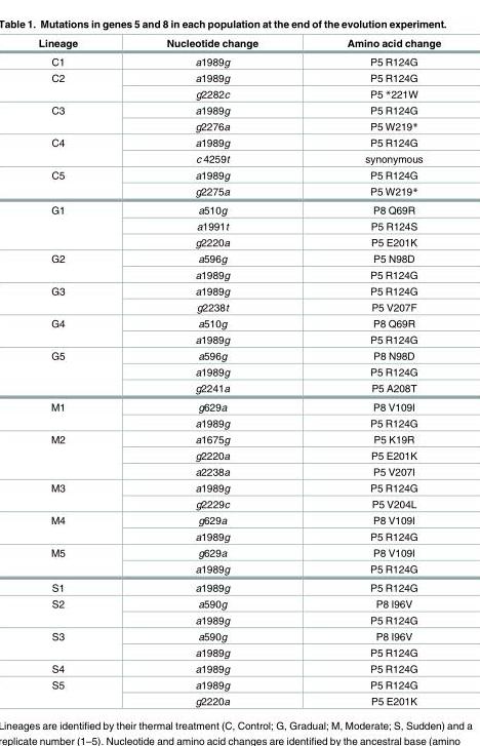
<table><thead><tr><td>Lineage</td><td>Nucleotide change</td><td>Amino acid change</td></tr></thead><tbody><tr><td>C1</td><td>a1989g</td><td>P5 R124G</td></tr><tr><td rowspan="2">C2</td><td>a1989g</td><td>P5 R124G</td></tr><tr><td>g2282c</td><td>P5 *221W</td></tr><tr><td rowspan="2">C3</td><td>a1989g</td><td>P5 R124G</td></tr><tr><td>g2276a</td><td>P5 W219*</td></tr><tr><td rowspan="2">C4</td><td>a1989g</td><td>P5 R124G</td></tr><tr><td>c 4259t</td><td>synonymous</td></tr><tr><td rowspan="2">C5</td><td>a1989g</td><td>P5 R124G</td></tr><tr><td>g2275a</td><td>P5 W219*</td></tr><tr><td rowspan="3">G1</td><td>a510g</td><td>P8 Q69R</td></tr><tr><td>a1991t</td><td>P5 R124S</td></tr><tr><td>g2220a</td><td>P5 E201K</td></tr><tr><td rowspan="2">G2</td><td>a596g</td><td>P5 N98D</td></tr><tr><td>a1989g</td><td>P5 R124G</td></tr><tr><td rowspan="2">G3</td><td>a1989g</td><td>P5 R124G</td></tr><tr><td>g2238t</td><td>P5 V207F</td></tr><tr><td rowspan="2">G4</td><td>a510g</td><td>P8 Q69R</td></tr><tr><td>a1989g</td><td>P5 R124G</td></tr><tr><td rowspan="3">G5</td><td>a596g</td><td>P8 N98D</td></tr><tr><td>a1989g</td><td>P5 R124G</td></tr><tr><td>g2241a</td><td>P5 A208T</td></tr><tr><td rowspan="2">M1</td><td>g629a</td><td>P8 V109I</td></tr><tr><td>a1989g</td><td>P5 R124G</td></tr><tr><td rowspan="3">M2</td><td>a1675g</td><td>P5 K19R</td></tr><tr><td>g2220a</td><td>P5 E201K</td></tr><tr><td>a2238a</td><td>P5 V207I</td></tr><tr><td rowspan="2">M3</td><td>a1989g</td><td>P5 R124G</td></tr><tr><td>g2229c</td><td>P5 V204L</td></tr><tr><td rowspan="2">M4</td><td>g629a</td><td>P8 V109I</td></tr><tr><td>a1989g</td><td>P5 R124G</td></tr><tr><td rowspan="2">M5</td><td>g629a</td><td>P8 V109I</td></tr><tr><td>a1989g</td><td>P5 R124G</td></tr><tr><td>S1</td><td>a1989g</td><td>P5 R124G</td></tr><tr><td rowspan="2">S2</td><td>a590g</td><td>P8 I96V</td></tr><tr><td>a1989g</td><td>P5 R124G</td></tr><tr><td rowspan="2">S3</td><td>a590g</td><td>P8 I96V</td></tr><tr><td>a1989g</td><td>P5 R124G</td></tr><tr><td>S4</td><td>a1989g</td><td>P5 R124G</td></tr><tr><td rowspan="2">S5</td><td>a1989g</td><td>P5 R124G</td></tr><tr><td>g2220a</td><td>P5 E201K</td></tr></tbody></table>